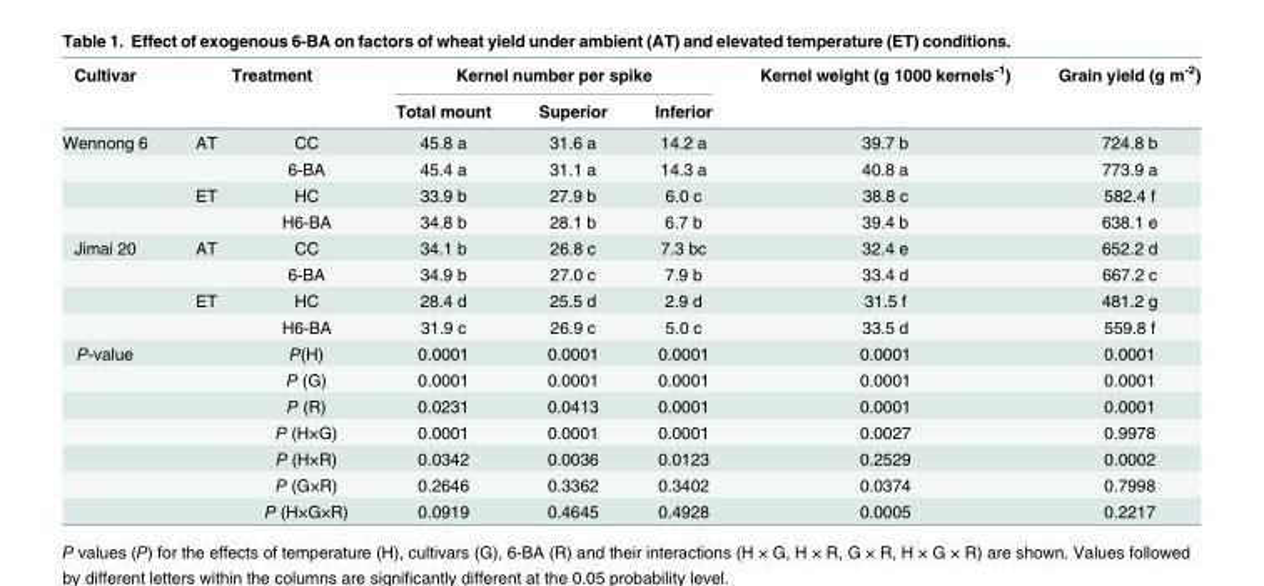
<table><thead><tr><td rowspan="2">Cultivar</td><td colspan="2">Treatment</td><td colspan="3">Kernel number per spike</td><td rowspan="2">Kernel weight (g 1000 kernels<sup>-1</sup>)</td><td rowspan="2">Grain yield (g m<sup>-2</sup>)</td></tr><tr><td></td><td></td><td>Total mount</td><td>Superior</td><td>Inferior</td></tr></thead><tbody><tr><td rowspan="4">Wennong 6</td><td>AT</td><td>CC</td><td>45.8 a</td><td>31.6 a</td><td>14.2 a</td><td>39.7 b</td><td>724.8 b</td></tr><tr><td></td><td>6-BA</td><td>45.4 a</td><td>31.1 a</td><td>14.3 a</td><td>40.8 a</td><td>773.9 a</td></tr><tr><td>ET</td><td>HC</td><td>33.9 b</td><td>27.9 b</td><td>6.0 c</td><td>38.8 c</td><td>582.4 f</td></tr><tr><td></td><td>H6-BA</td><td>34.8 b</td><td>28.1 b</td><td>6.7 b</td><td>39.4 b</td><td>638.1 e</td></tr><tr><td rowspan="4">Jimai 20</td><td>AT</td><td>CC</td><td>34.1 b</td><td>26.8 c</td><td>7.3 bc</td><td>32.4 e</td><td>652.2 d</td></tr><tr><td></td><td>6-BA</td><td>34.9 b</td><td>27.0 c</td><td>7.9 b</td><td>33.4 d</td><td>667.2 c</td></tr><tr><td>ET</td><td>HC</td><td>28.4 d</td><td>25.5 d</td><td>2.9 d</td><td>31.5 f</td><td>481.2 g</td></tr><tr><td></td><td>H6-BA</td><td>31.9 c</td><td>26.9 c</td><td>5.0 c</td><td>33.5 d</td><td>559.8 f</td></tr><tr><td rowspan="7">P-value</td><td></td><td>P(H)</td><td>0.0001</td><td>0.0001</td><td>0.0001</td><td>0.0001</td><td>0.0001</td></tr><tr><td></td><td>P (G)</td><td>0.0001</td><td>0.0001</td><td>0.0001</td><td>0.0001</td><td>0.0001</td></tr><tr><td></td><td>P (R)</td><td>0.0231</td><td>0.0413</td><td>0.0001</td><td>0.0001</td><td>0.0001</td></tr><tr><td></td><td>P (H×G)</td><td>0.0001</td><td>0.0001</td><td>0.0001</td><td>0.0027</td><td>0.9978</td></tr><tr><td></td><td>P (H×R)</td><td>0.0342</td><td>0.0036</td><td>0.0123</td><td>0.2529</td><td>0.0002</td></tr><tr><td></td><td>P (G×R)</td><td>0.2646</td><td>0.3362</td><td>0.3402</td><td>0.0374</td><td>0.7998</td></tr><tr><td></td><td>P (H×G×R)</td><td>0.0919</td><td>0.4645</td><td>0.4928</td><td>0.0005</td><td>0.2217</td></tr></tbody></table>